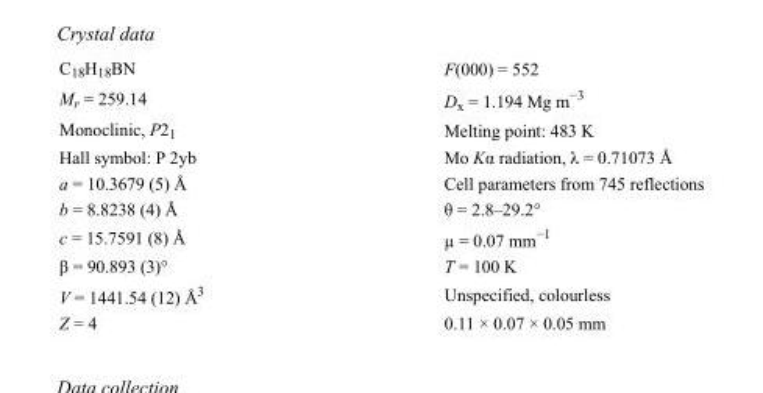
<table><tbody><tr><td>C<sub>18</sub>H<sub>18</sub>BN</td><td>F(000) = 552</td></tr><tr><td>M<sub>r</sub> = 259.14</td><td>D<sub>x</sub> = 1.194 Mg m<sup>−3</sup></td></tr><tr><td>Monoclinic, P2<sub>1</sub></td><td>Melting point: 483 K</td></tr><tr><td>Hall symbol: P 2yb</td><td>Mo Kα radiation, λ = 0.71073 Å</td></tr><tr><td>a = 10.3679 (5) Å</td><td>Cell parameters from 745 reflections</td></tr><tr><td>b = 8.8238 (4) Å</td><td>θ = 2.8–29.2°</td></tr><tr><td>c = 15.7591 (8) Å</td><td>µ = 0.07 mm<sup>−1</sup></td></tr><tr><td>β = 90.893 (3)°</td><td>T = 100 K</td></tr><tr><td>V = 1441.54 (12) Å<sup>3</sup></td><td>Unspecified, colourless</td></tr><tr><td>Z = 4</td><td>0.11 × 0.07 × 0.05 mm</td></tr></tbody></table>